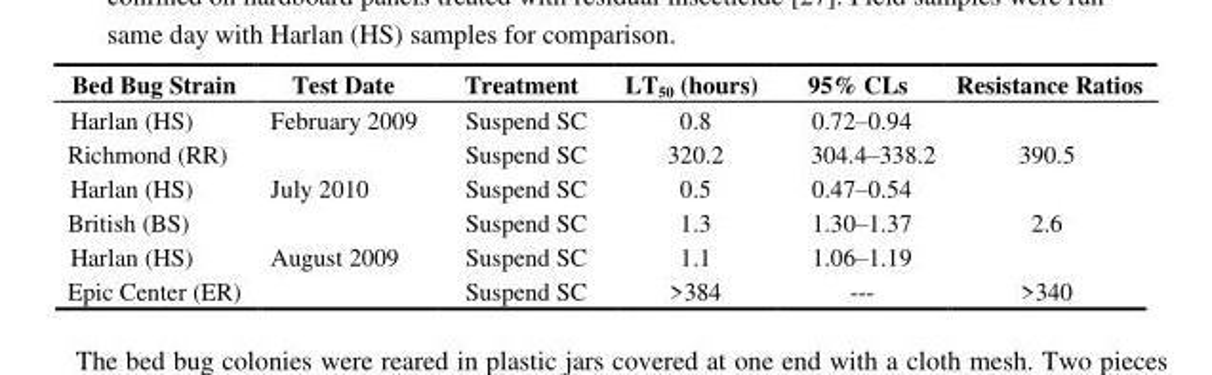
<table><thead><tr><td>Bed Bug Strain</td><td>Test Date</td><td>Treatment</td><td>LT<sub>50</sub> (hours)</td><td>95% CLs</td><td>Resistance Ratios</td></tr></thead><tbody><tr><td>Harlan (HS)</td><td>February 2009</td><td>Suspend SC</td><td>0.8</td><td>0.72–0.94</td><td></td></tr><tr><td>Richmond (RR)</td><td></td><td>Suspend SC</td><td>320.2</td><td>304.4–338.2</td><td>390.5</td></tr><tr><td>Harlan (HS)</td><td>July 2010</td><td>Suspend SC</td><td>0.5</td><td>0.47–0.54</td><td></td></tr><tr><td>British (BS)</td><td></td><td>Suspend SC</td><td>1.3</td><td>1.30–1.37</td><td>2.6</td></tr><tr><td>Harlan (HS)</td><td>August 2009</td><td>Suspend SC</td><td>1.1</td><td>1.06–1.19</td><td></td></tr><tr><td>Epic Center (ER)</td><td></td><td>Suspend SC</td><td>&gt;384</td><td>---</td><td>&gt;340</td></tr></tbody></table>